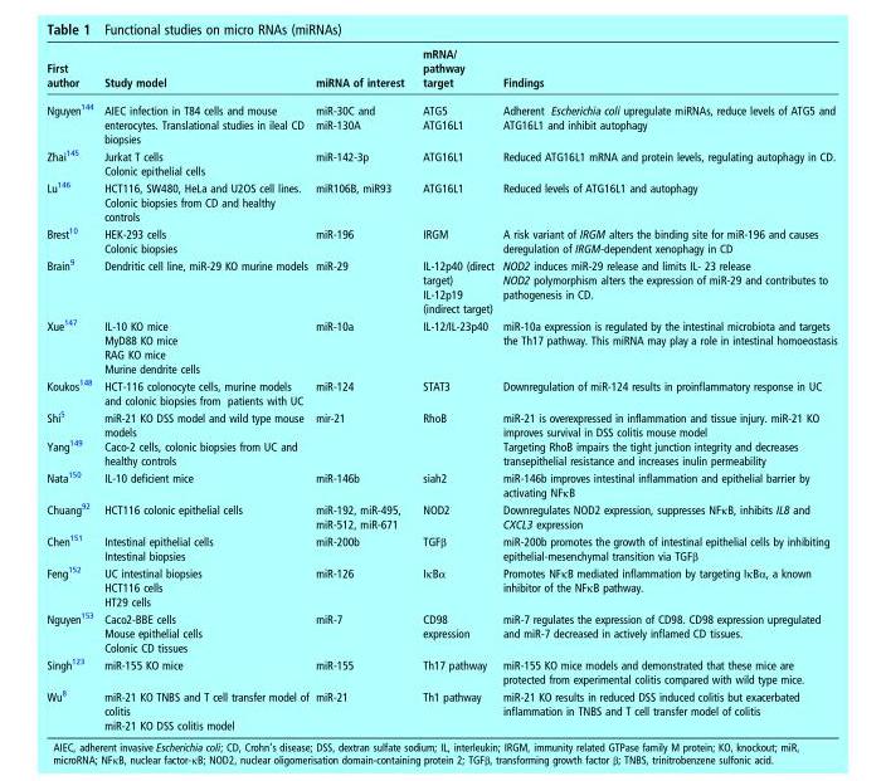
<table><thead><tr><td>First author</td><td>Study model</td><td>miRNA of interest</td><td>mRNA/ pathway target</td><td>Findings</td></tr></thead><tbody><tr><td>Nguyen<sup>144</sup></td><td>AIEC infection in T84 cells and mouse enterocytes. Translational studies in ileal CD biopsies</td><td>miR-30C and miR-130A</td><td>ATG5 ATG16L1</td><td>Adherent Escherichia coli upregulate miRNAs, reduce levels of ATG5 and ATG16L1 and inhibit autophagy</td></tr><tr><td>Zhai<sup>145</sup></td><td>Jurkat T cells Colonic epithelial cells</td><td>miR-142-3p</td><td>ATG16L1</td><td>Reduced ATG16L1 mRNA and protein levels, regulating autophagy in CD.</td></tr><tr><td>Lu<sup>146</sup></td><td>HCT116, SW480, HeLa and U2OS cell lines. Colonic biopsies from CD and healthy controls</td><td>miR106B, miR93</td><td>ATG16L1</td><td>Reduced levels of ATG16L1 and autophagy</td></tr><tr><td>Brest<sup>10</sup></td><td>HEK-293 cells Colonic biopsies</td><td>miR-196</td><td>IRGM</td><td>A risk variant of IRGM alters the binding site for miR-196 and causes deregulation of IRGM-dependent xenophagy in CD</td></tr><tr><td>Brain<sup>9</sup></td><td>Dendritic cell line, miR-29 KO murine models</td><td>miR-29</td><td>IL-12p40 (direct target) IL-12p19 (indirect target)</td><td>NOD2 induces miR-29 release and limits IL- 23 release NOD2 polymorphism alters the expression of miR-29 and contributes to pathogenesis in CD.</td></tr><tr><td>Xue<sup>147</sup></td><td>IL-10 KO mice MyD88 KO mice RAG KO mice Murine dendrite cells</td><td>miR-10a</td><td>IL-12/IL-23p40</td><td>miR-10a expression is regulated by the intestinal microbiota and targets the Th17 pathway. This miRNA may play a role in intestinal homoeostasis</td></tr><tr><td>Koukos<sup>148</sup></td><td>HCT-116 colonocyte cells, murine models and colonic biopsies from patients with UC</td><td>miR-124</td><td>STAT3</td><td>Downregulation of miR-124 results in proinflammatory response in UC</td></tr><tr><td>Shi<sup>5</sup> Yang<sup>149</sup></td><td>miR-21 KO DSS model and wild type mouse models Caco-2 cells, colonic biopsies from UC and healthy controls</td><td>mir-21</td><td>RhoB</td><td>miR-21 is overexpressed in inflammation and tissue injury. miR-21 KO improves survival in DSS colitis mouse model Targeting RhoB impairs the tight junction integrity and decreases transepithelial resistance and increases inulin permeability</td></tr><tr><td>Nata<sup>150</sup></td><td>IL-10 deficient mice</td><td>miR-146b</td><td>siah2</td><td>miR-146b improves intestinal inflammation and epithelial barrier by activating NFκB</td></tr><tr><td>Chuang<sup>92</sup></td><td>HCT116 colonic epithelial cells</td><td>miR-192, miR-495, miR-512, miR-671</td><td>NOD2</td><td>Downregulates NOD2 expression, suppresses NFκB, inhibits IL8 and CXCL3 expression</td></tr><tr><td>Chen<sup>151</sup></td><td>Intestinal epithelial cells Intestinal biopsies</td><td>miR-200b</td><td>TGFβ</td><td>miR-200b promotes the growth of intestinal epithelial cells by inhibiting epithelial-mesenchymal transition via TGFβ</td></tr><tr><td>Feng<sup>152</sup></td><td>UC intestinal biopsies HCT116 cells HT29 cells</td><td>miR-126</td><td>IκBα</td><td>Promotes NFκB mediated inflammation by targeting IκBα, a known inhibitor of the NFκB pathway.</td></tr><tr><td>Nguyen<sup>153</sup></td><td>Caco2-BBE cells Mouse epithelial cells Colonic CD tissues</td><td>miR-7</td><td>CD98 expression</td><td>miR-7 regulates the expression of CD98. CD98 expression upregulated and miR-7 decreased in actively inflamed CD tissues.</td></tr><tr><td>Singh<sup>123</sup></td><td>miR-155 KO mice</td><td>miR-155</td><td>Th17 pathway</td><td>miR-155 KO mice models and demonstrated that these mice are protected from experimental colitis compared with wild type mice.</td></tr><tr><td>Wu<sup>8</sup></td><td>miR-21 KO TNBS and T cell transfer model of colitis miR-21 KO DSS colitis model</td><td>miR-21</td><td>Th1 pathway</td><td>miR-21 KO results in reduced DSS induced colitis but exacerbated inflammation in TNBS and T cell transfer model of colitis</td></tr></tbody></table>